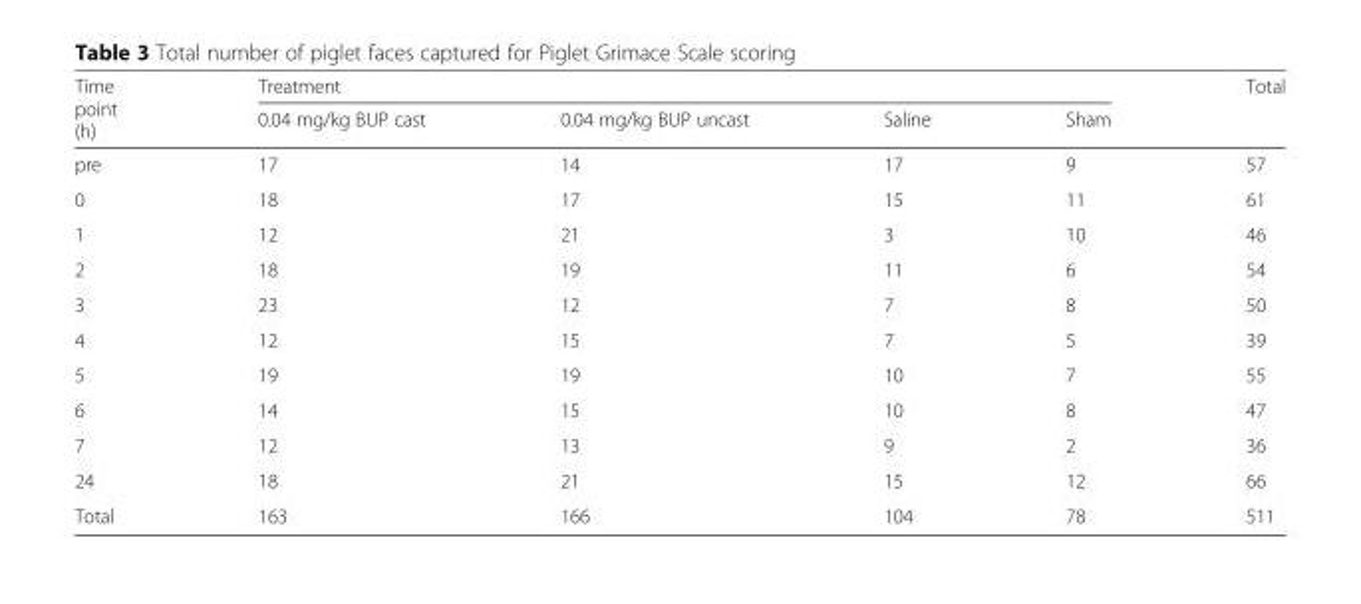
<table><thead><tr><td rowspan="2">Time point (h)</td><td colspan="4">Treatment</td><td rowspan="2">Total</td></tr><tr><td>0.04 mg/kg BUP cast</td><td>0.04 mg/kg BUP uncast</td><td>Saline</td><td>Sham</td></tr></thead><tbody><tr><td>pre</td><td>17</td><td>14</td><td>17</td><td>9</td><td>57</td></tr><tr><td>0</td><td>18</td><td>17</td><td>15</td><td>11</td><td>61</td></tr><tr><td>1</td><td>12</td><td>21</td><td>3</td><td>10</td><td>46</td></tr><tr><td>2</td><td>18</td><td>19</td><td>11</td><td>6</td><td>54</td></tr><tr><td>3</td><td>23</td><td>12</td><td>7</td><td>8</td><td>50</td></tr><tr><td>4</td><td>12</td><td>15</td><td>7</td><td>5</td><td>39</td></tr><tr><td>5</td><td>19</td><td>19</td><td>10</td><td>7</td><td>55</td></tr><tr><td>6</td><td>14</td><td>15</td><td>10</td><td>8</td><td>47</td></tr><tr><td>7</td><td>12</td><td>13</td><td>9</td><td>2</td><td>36</td></tr><tr><td>24</td><td>18</td><td>21</td><td>15</td><td>12</td><td>66</td></tr><tr><td>Total</td><td>163</td><td>166</td><td>104</td><td>78</td><td>511</td></tr></tbody></table>